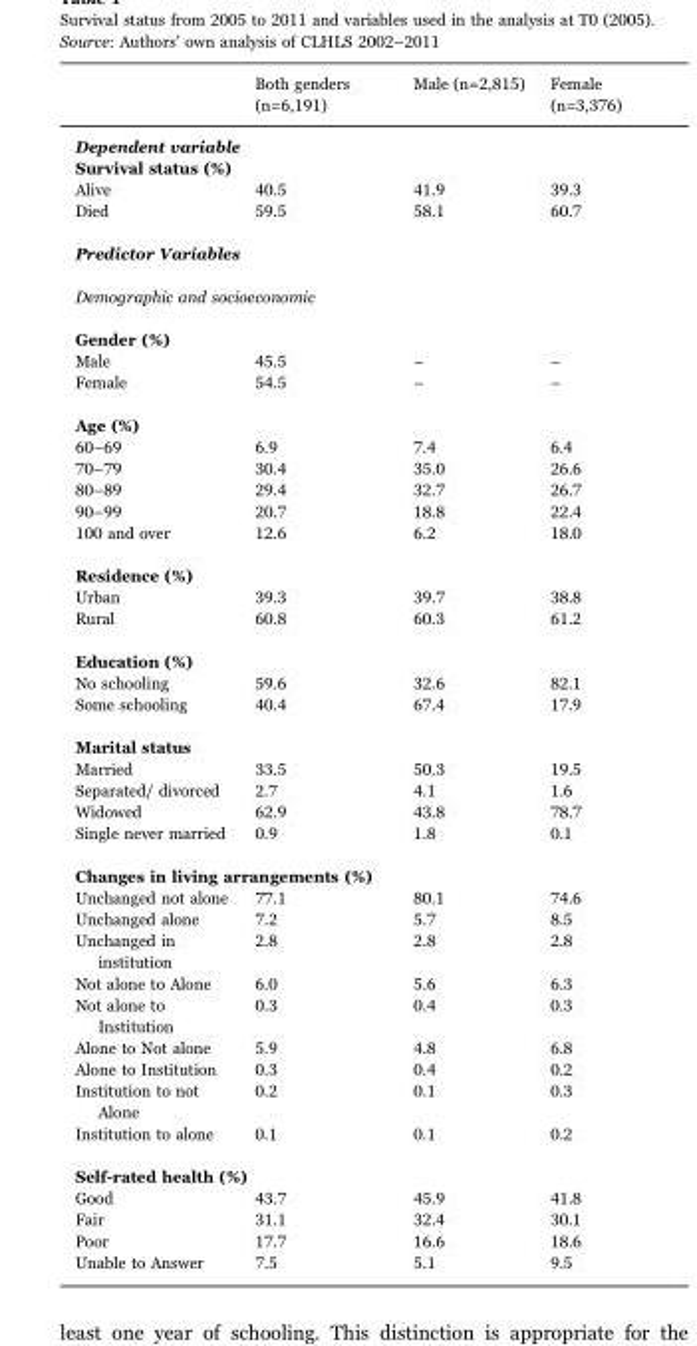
<table><thead><tr><td></td><td>Both genders (n=6,191)</td><td>Male (n=2,815)</td><td>Female (n=3,376)</td></tr></thead><tbody><tr><td colspan="2">Dependent variable</td><td rowspan="2"></td><td rowspan="2"></td></tr><tr><td colspan="2">Survival status (%)</td></tr><tr><td>Alive</td><td>40.5</td><td>41.9</td><td>39.3</td></tr><tr><td>Died</td><td>59.5</td><td>58.1</td><td>60.7</td></tr><tr><td colspan="4">Predictor Variables</td></tr><tr><td colspan="4">Demographic and socioeconomic</td></tr><tr><td colspan="4">Gender (%)</td></tr><tr><td>Male</td><td>45.5</td><td>–</td><td>–</td></tr><tr><td>Female</td><td>54.5</td><td>–</td><td>–</td></tr><tr><td colspan="4">Age (%)</td></tr><tr><td>60–69</td><td>6.9</td><td>7.4</td><td>6.4</td></tr><tr><td>70–79</td><td>30.4</td><td>35.0</td><td>26.6</td></tr><tr><td>80–89</td><td>29.4</td><td>32.7</td><td>26.7</td></tr><tr><td>90–99</td><td>20.7</td><td>18.8</td><td>22.4</td></tr><tr><td>100 and over</td><td>12.6</td><td>6.2</td><td>18.0</td></tr><tr><td colspan="4">Residence (%)</td></tr><tr><td>Urban</td><td>39.3</td><td>39.7</td><td>38.8</td></tr><tr><td>Rural</td><td>60.8</td><td>60.3</td><td>61.2</td></tr><tr><td colspan="4">Education (%)</td></tr><tr><td>No schooling</td><td>59.6</td><td>32.6</td><td>82.1</td></tr><tr><td>Some schooling</td><td>40.4</td><td>67.4</td><td>17.9</td></tr><tr><td colspan="4">Marital status</td></tr><tr><td>Married</td><td>33.5</td><td>50.3</td><td>19.5</td></tr><tr><td>Separated/ divorced</td><td>2.7</td><td>4.1</td><td>1.6</td></tr><tr><td>Widowed</td><td>62.9</td><td>43.8</td><td>78.7</td></tr><tr><td>Single never married</td><td>0.9</td><td>1.8</td><td>0.1</td></tr><tr><td colspan="4">Changes in living arrangements (%)</td></tr><tr><td>Unchanged not alone</td><td>77.1</td><td>80.1</td><td>74.6</td></tr><tr><td>Unchanged alone</td><td>7.2</td><td>5.7</td><td>8.5</td></tr><tr><td>Unchanged in institution</td><td>2.8</td><td>2.8</td><td>2.8</td></tr><tr><td>Not alone to Alone</td><td>6.0</td><td>5.6</td><td>6.3</td></tr><tr><td>Not alone to Institution</td><td>0.3</td><td>0.4</td><td>0.3</td></tr><tr><td>Alone to Not alone</td><td>5.9</td><td>4.8</td><td>6.8</td></tr><tr><td>Alone to Institution</td><td>0.3</td><td>0.4</td><td>0.2</td></tr><tr><td>Institution to not Alone</td><td>0.2</td><td>0.1</td><td>0.3</td></tr><tr><td>Institution to alone</td><td>0.1</td><td>0.1</td><td>0.2</td></tr><tr><td colspan="4">Self-rated health (%)</td></tr><tr><td>Good</td><td>43.7</td><td>45.9</td><td>41.8</td></tr><tr><td>Fair</td><td>31.1</td><td>32.4</td><td>30.1</td></tr><tr><td>Poor</td><td>17.7</td><td>16.6</td><td>18.6</td></tr><tr><td>Unable to Answer</td><td>7.5</td><td>5.1</td><td>9.5</td></tr></tbody></table>